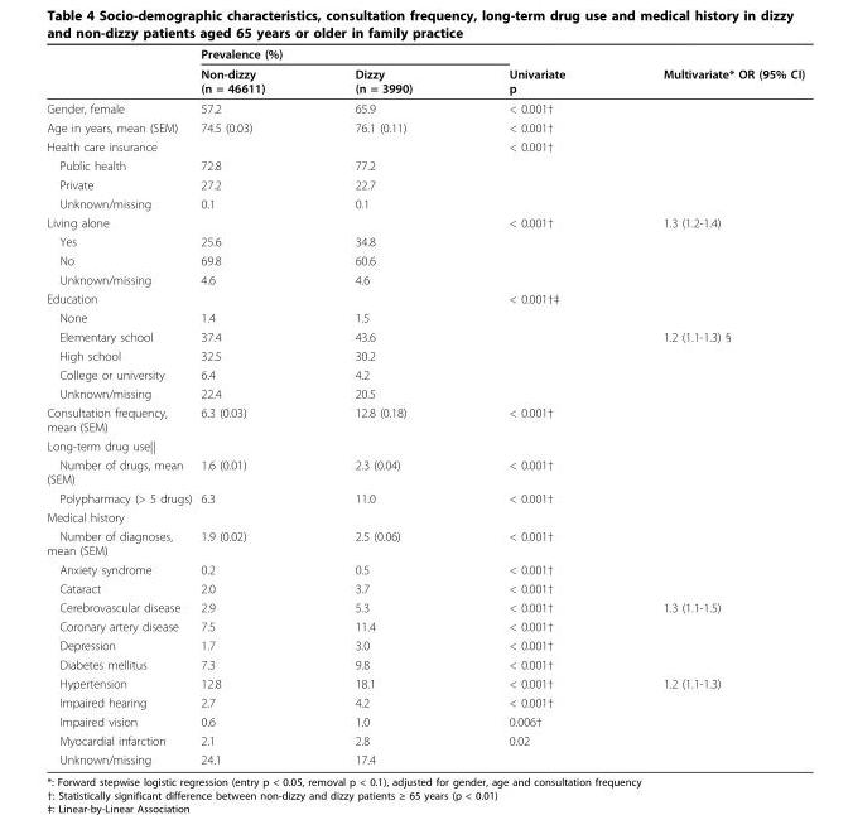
<table><thead><tr><td rowspan="2"></td><td colspan="2">Prevalence (%)</td><td rowspan="2">Univariate p</td><td rowspan="2">Multivariate* OR (95% CI)</td></tr><tr><td>Non-dizzy (n = 46611)</td><td>Dizzy (n = 3990)</td></tr></thead><tbody><tr><td>Gender, female</td><td>57.2</td><td>65.9</td><td>&lt; 0.001†</td><td></td></tr><tr><td>Age in years, mean (SEM)</td><td>74.5 (0.03)</td><td>76.1 (0.11)</td><td>&lt; 0.001†</td><td></td></tr><tr><td>Health care insurance</td><td></td><td></td><td>&lt; 0.001†</td><td></td></tr><tr><td>Public health</td><td>72.8</td><td>77.2</td><td></td><td></td></tr><tr><td>Private</td><td>27.2</td><td>22.7</td><td></td><td></td></tr><tr><td>Unknown/missing</td><td>0.1</td><td>0.1</td><td></td><td></td></tr><tr><td>Living alone</td><td></td><td></td><td>&lt; 0.001†</td><td>1.3 (1.2-1.4)</td></tr><tr><td>Yes</td><td>25.6</td><td>34.8</td><td></td><td></td></tr><tr><td>No</td><td>69.8</td><td>60.6</td><td></td><td></td></tr><tr><td>Unknown/missing</td><td>4.6</td><td>4.6</td><td></td><td></td></tr><tr><td>Education</td><td></td><td></td><td>&lt; 0.001†‡</td><td></td></tr><tr><td>None</td><td>1.4</td><td>1.5</td><td></td><td></td></tr><tr><td>Elementary school</td><td>37.4</td><td>43.6</td><td></td><td>1.2 (1.1-1.3) §</td></tr><tr><td>High school</td><td>32.5</td><td>30.2</td><td></td><td></td></tr><tr><td>College or university</td><td>6.4</td><td>4.2</td><td></td><td></td></tr><tr><td>Unknown/missing</td><td>22.4</td><td>20.5</td><td></td><td></td></tr><tr><td>Consultation frequency, mean (SEM)</td><td>6.3 (0.03)</td><td>12.8 (0.18)</td><td>&lt; 0.001†</td><td></td></tr><tr><td colspan="5">Long-term drug use||</td></tr><tr><td>Number of drugs, mean (SEM)</td><td>1.6 (0.01)</td><td>2.3 (0.04)</td><td>&lt; 0.001†</td><td></td></tr><tr><td>Polypharmacy (&gt; 5 drugs)</td><td>6.3</td><td>11.0</td><td>&lt; 0.001†</td><td></td></tr><tr><td colspan="5">Medical history</td></tr><tr><td>Number of diagnoses, mean (SEM)</td><td>1.9 (0.02)</td><td>2.5 (0.06)</td><td>&lt; 0.001†</td><td></td></tr><tr><td>Anxiety syndrome</td><td>0.2</td><td>0.5</td><td>&lt; 0.001†</td><td></td></tr><tr><td>Cataract</td><td>2.0</td><td>3.7</td><td>&lt; 0.001†</td><td></td></tr><tr><td>Cerebrovascular disease</td><td>2.9</td><td>5.3</td><td>&lt; 0.001†</td><td>1.3 (1.1-1.5)</td></tr><tr><td>Coronary artery disease</td><td>7.5</td><td>11.4</td><td>&lt; 0.001†</td><td></td></tr><tr><td>Depression</td><td>1.7</td><td>3.0</td><td>&lt; 0.001†</td><td></td></tr><tr><td>Diabetes mellitus</td><td>7.3</td><td>9.8</td><td>&lt; 0.001†</td><td></td></tr><tr><td>Hypertension</td><td>12.8</td><td>18.1</td><td>&lt; 0.001†</td><td>1.2 (1.1-1.3)</td></tr><tr><td>Impaired hearing</td><td>2.7</td><td>4.2</td><td>&lt; 0.001†</td><td></td></tr><tr><td>Impaired vision</td><td>0.6</td><td>1.0</td><td>0.006†</td><td></td></tr><tr><td>Myocardial infarction</td><td>2.1</td><td>2.8</td><td>0.02</td><td></td></tr><tr><td>Unknown/missing</td><td>24.1</td><td>17.4</td><td></td><td></td></tr></tbody></table>